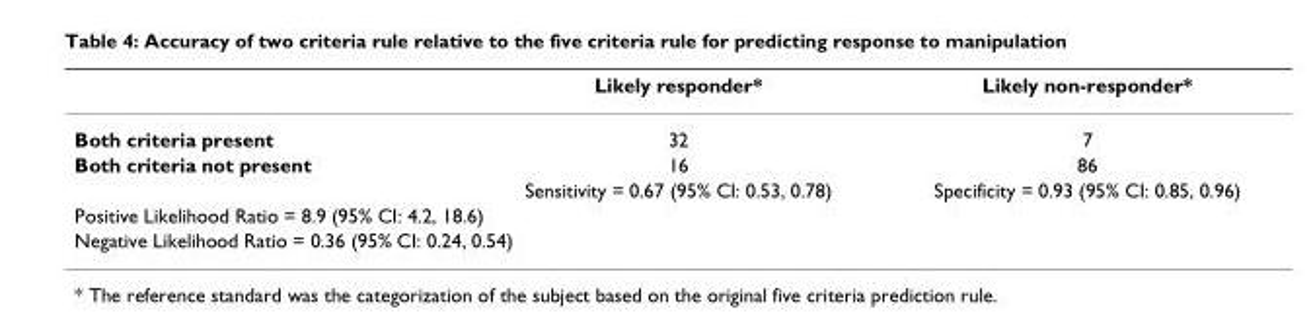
<table><thead><tr><td></td><td>Likely responder*</td><td>Likely non-responder*</td></tr></thead><tbody><tr><td>Both criteria present</td><td>32</td><td>7</td></tr><tr><td rowspan="2">Both criteria not present</td><td>16</td><td>86</td></tr><tr><td>Sensitivity = 0.67 (95% CI: 0.53, 0.78)</td><td>Specificity = 0.93 (95% CI: 0.85, 0.96)</td></tr><tr><td colspan="3">Positive Likelihood Ratio = 8.9 (95% CI: 4.2, 18.6)</td></tr><tr><td colspan="3">Negative Likelihood Ratio = 0.36 (95% CI: 0.24, 0.54)</td></tr></tbody></table>